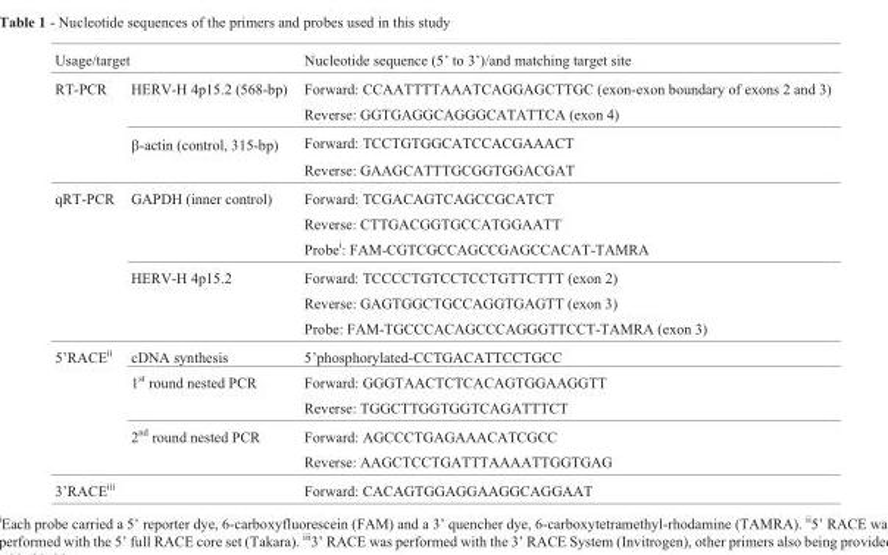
<table><thead><tr><td colspan="2">Usage/target</td><td rowspan="2">Nucleotide sequence (5’ to 3’)/and matching target site Forward: CCAATTTTAAATCAGGAGCTTGC (exon-exon boundary of exons 2 and 3)</td></tr><tr><td>RT-PCR</td><td>HERV-H 4p15.2 (568-bp)</td></tr></thead><tbody><tr><td></td><td></td><td>Reverse: GGTGAGGCAGGGCATATTCA (exon 4)</td></tr><tr><td></td><td>β-actin (control, 315-bp)</td><td>Forward: TCCTGTGGCATCCACGAAACT</td></tr><tr><td></td><td></td><td>Reverse: GAAGCATTTGCGGTGGACGAT</td></tr><tr><td rowspan="6">qRT-PCR</td><td>GAPDH (inner control)</td><td>Forward: TCGACAGTCAGCCGCATCT</td></tr><tr><td></td><td>Reverse: CTTGACGGTGCCATGGAATT</td></tr><tr><td></td><td>Probe<sup>i</sup>: FAM-CGTCGCCAGCCGAGCCACAT-TAMRA</td></tr><tr><td>HERV-H 4p15.2</td><td>Forward: TCCCCTGTCCTCCTGTTCTTT (exon 2)</td></tr><tr><td></td><td>Reverse: GAGTGGCTGCCAGGTGAGTT (exon 3)</td></tr><tr><td></td><td>Probe: FAM-TGCCCACAGCCCAGGGTTCCT-TAMRA (exon 3)</td></tr><tr><td rowspan="5">5’RACE<sup>ii</sup></td><td>cDNA synthesis</td><td>5’phosphorylated-CCTGACATTCCTGCC</td></tr><tr><td>1<sup>st</sup> round nested PCR</td><td>Forward: GGGTAACTCTCACAGTGGAAGGTT</td></tr><tr><td></td><td>Reverse: TGGCTTGGTGGTCAGATTTCT</td></tr><tr><td>2<sup>nd</sup> round nested PCR</td><td>Forward: AGCCCTGAGAAACATCGCC</td></tr><tr><td></td><td>Reverse: AAGCTCCTGATTTAAAATTGGTGAG</td></tr><tr><td>3’RACE<sup>iii</sup></td><td></td><td>Forward: CACAGTGGAGGAAGGCAGGAAT</td></tr></tbody></table>